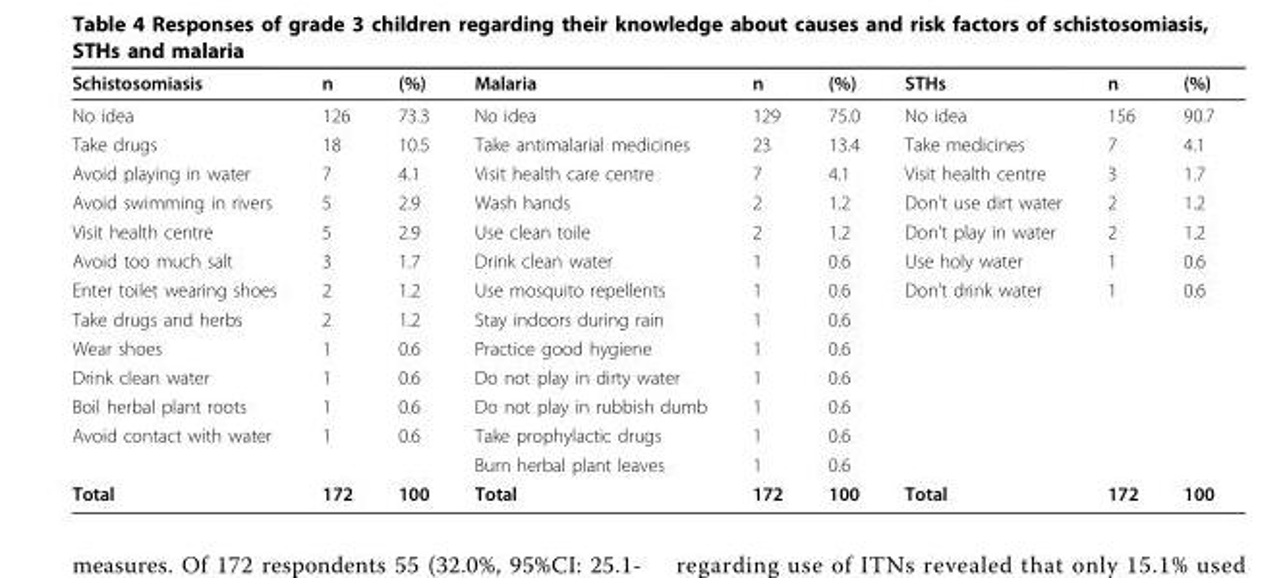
<table><thead><tr><td>Schistosomiasis</td><td>n</td><td>(%)</td><td>Malaria</td><td>n</td><td>(%)</td><td>STHs</td><td>n</td><td>(%)</td></tr></thead><tbody><tr><td>No idea</td><td>126</td><td>73.3</td><td>No idea</td><td>129</td><td>75.0</td><td>No idea</td><td>156</td><td>90.7</td></tr><tr><td>Take drugs</td><td>18</td><td>10.5</td><td>Take antimalarial medicines</td><td>23</td><td>13.4</td><td>Take medicines</td><td>7</td><td>4.1</td></tr><tr><td>Avoid playing in water</td><td>7</td><td>4.1</td><td>Visit health care centre</td><td>7</td><td>4.1</td><td>Visit health centre</td><td>3</td><td>1.7</td></tr><tr><td>Avoid swimming in rivers</td><td>5</td><td>2.9</td><td>Wash hands</td><td>2</td><td>1.2</td><td>Don’t use dirt water</td><td>2</td><td>1.2</td></tr><tr><td>Visit health centre</td><td>5</td><td>2.9</td><td>Use clean toile</td><td>2</td><td>1.2</td><td>Don’t play in water</td><td>2</td><td>1.2</td></tr><tr><td>Avoid too much salt</td><td>3</td><td>1.7</td><td>Drink clean water</td><td>1</td><td>0.6</td><td>Use holy water</td><td>1</td><td>0.6</td></tr><tr><td>Enter toilet wearing shoes</td><td>2</td><td>1.2</td><td>Use mosquito repellents</td><td>1</td><td>0.6</td><td>Don’t drink water</td><td>1</td><td>0.6</td></tr><tr><td>Take drugs and herbs</td><td>2</td><td>1.2</td><td>Stay indoors during rain</td><td>1</td><td>0.6</td><td></td><td></td><td></td></tr><tr><td>Wear shoes</td><td>1</td><td>0.6</td><td>Practice good hygiene</td><td>1</td><td>0.6</td><td></td><td></td><td></td></tr><tr><td>Drink clean water</td><td>1</td><td>0.6</td><td>Do not play in dirty water</td><td>1</td><td>0.6</td><td></td><td></td><td></td></tr><tr><td>Boil herbal plant roots</td><td>1</td><td>0.6</td><td>Do not play in rubbish dumb</td><td>1</td><td>0.6</td><td></td><td></td><td></td></tr><tr><td rowspan="2">Avoid contact with water</td><td>1</td><td>0.6</td><td>Take prophylactic drugs</td><td>1</td><td>0.6</td><td></td><td></td><td></td></tr><tr><td></td><td></td><td>Burn herbal plant leaves</td><td>1</td><td>0.6</td><td></td><td></td><td></td></tr><tr><td>Total</td><td>172</td><td>100</td><td>Total</td><td>172</td><td>100</td><td>Total</td><td>172</td><td>100</td></tr></tbody></table>